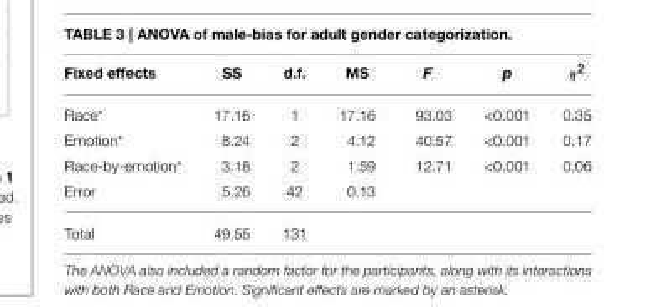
<table><thead><tr><td>Fixed effects</td><td>SS</td><td>d.f.</td><td>MS</td><td>F</td><td>p</td><td>η<sup>2</sup></td></tr></thead><tbody><tr><td>Race*</td><td>17.16</td><td>1</td><td>17.16</td><td>93.03</td><td>&lt;0.001</td><td>0.35</td></tr><tr><td>Emotion*</td><td>8.24</td><td>2</td><td>4.12</td><td>40.57</td><td>&lt;0.001</td><td>0.17</td></tr><tr><td>Race-by-emotion*</td><td>3.18</td><td>2</td><td>1.59</td><td>12.71</td><td>&lt;0.001</td><td>0.06</td></tr><tr><td>Error</td><td>5.26</td><td>42</td><td>0.13</td><td></td><td></td><td></td></tr><tr><td>Total</td><td>49.55</td><td>131</td><td></td><td></td><td></td><td></td></tr></tbody></table>